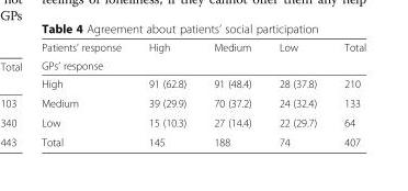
<table><thead><tr><td rowspan="2">Patients’ response GPs’ response</td><td rowspan="2">High</td><td rowspan="2">Medium</td><td rowspan="2">Low</td><td rowspan="2">Total</td></tr><tr></tr></thead><tbody><tr><td>High</td><td>91 (62.8)</td><td>91 (48.4)</td><td>28 (37.8)</td><td>210</td></tr><tr><td>Medium</td><td>39 (29.9)</td><td>70 (37.2)</td><td>24 (32.4)</td><td>133</td></tr><tr><td>Low</td><td>15 (10.3)</td><td>27 (14.4)</td><td>22 (29.7)</td><td>64</td></tr><tr><td>Total</td><td>145</td><td>188</td><td>74</td><td>407</td></tr></tbody></table>